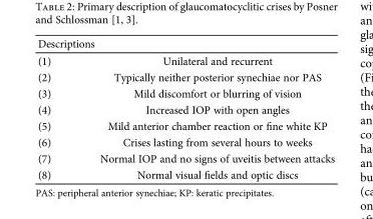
<table><thead><tr><td colspan="2">Descriptions</td></tr><tr><td>(1)</td><td>Unilateral and recurrent</td></tr></thead><tbody><tr><td>(2)</td><td>Typically neither posterior synechiae nor PAS</td></tr><tr><td>(3)</td><td>Mild discomfort or blurring of vision</td></tr><tr><td>(4)</td><td>Increased IOP with open angles</td></tr><tr><td>(5)</td><td>Mild anterior chamber reaction or fine white KP</td></tr><tr><td>(6)</td><td>Crises lasting from several hours to weeks</td></tr><tr><td>(7)</td><td>Normal IOP and no signs of uveitis between attacks</td></tr><tr><td>(8)</td><td>Normal visual fields and optic discs</td></tr></tbody></table>